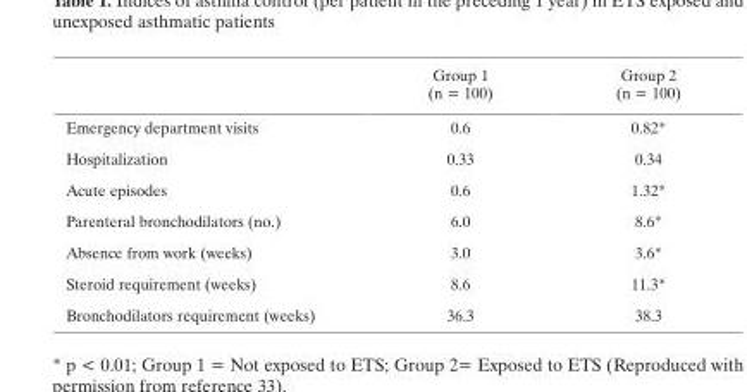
<table><thead><tr><td></td><td>Group 1 (n = 100)</td><td>Group 2 (n = 100)</td></tr></thead><tbody><tr><td>Emergency department visits</td><td>0.6</td><td>0.82*</td></tr><tr><td>Hospitalization</td><td>0.33</td><td>0.34</td></tr><tr><td>Acute episodes</td><td>0.6</td><td>1.32*</td></tr><tr><td>Parenteral bronchodilators (no.)</td><td>6.0</td><td>8.6*</td></tr><tr><td>Absence from work (weeks)</td><td>3.0</td><td>3.6*</td></tr><tr><td>Steroid requirement (weeks)</td><td>8.6</td><td>11.3*</td></tr><tr><td>Bronchodilators requirement (weeks)</td><td>36.3</td><td>38.3</td></tr></tbody></table>